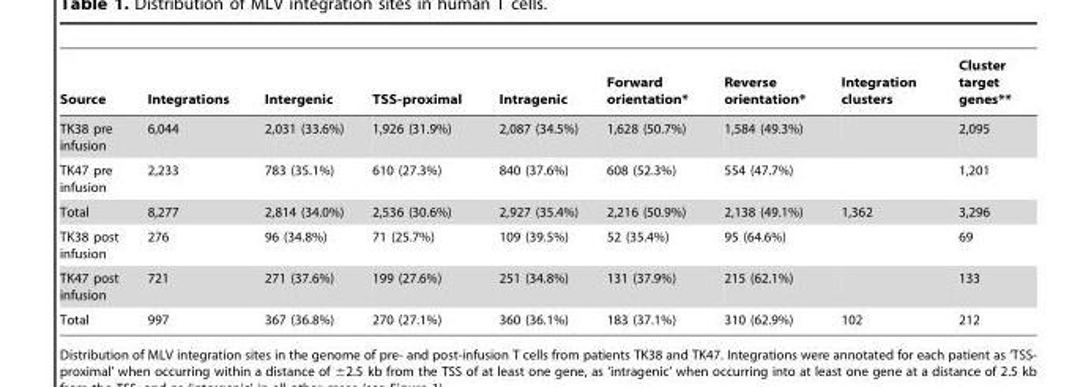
<table><thead><tr><td>Source</td><td>Integrations</td><td>Intergenic</td><td>TSS-proximal</td><td>Intragenic</td><td>Forward orientation*</td><td>Reverse orientation*</td><td>Integration clusters</td><td>Cluster target genes**</td></tr></thead><tbody><tr><td>TK38 pre infusion</td><td>6,044</td><td>2,031 (33.6%)</td><td>1,926 (31.9%)</td><td>2,087 (34.5%)</td><td>1,628 (50.7%)</td><td>1,584 (49.3%)</td><td></td><td>2,095</td></tr><tr><td>TK47 pre infusion</td><td>2,233</td><td>783 (35.1%)</td><td>610 (27.3%)</td><td>840 (37.6%)</td><td>608 (52.3%)</td><td>554 (47.7%)</td><td></td><td>1,201</td></tr><tr><td>Total</td><td>8,277</td><td>2,814 (34.0%)</td><td>2,536 (30.6%)</td><td>2,927 (35.4%)</td><td>2,216 (50.9%)</td><td>2,138 (49.1%)</td><td>1,362</td><td>3,296</td></tr><tr><td>TK38 post infusion</td><td>276</td><td>96 (34.8%)</td><td>71 (25.7%)</td><td>109 (39.5%)</td><td>52 (35.4%)</td><td>95 (64.6%)</td><td></td><td>69</td></tr><tr><td>TK47 post infusion</td><td>721</td><td>271 (37.6%)</td><td>199 (27.6%)</td><td>251 (34.8%)</td><td>131 (37.9%)</td><td>215 (62.1%)</td><td></td><td>133</td></tr><tr><td>Total</td><td>997</td><td>367 (36.8%)</td><td>270 (27.1%)</td><td>360 (36.1%)</td><td>183 (37.1%)</td><td>310 (62.9%)</td><td>102</td><td>212</td></tr></tbody></table>